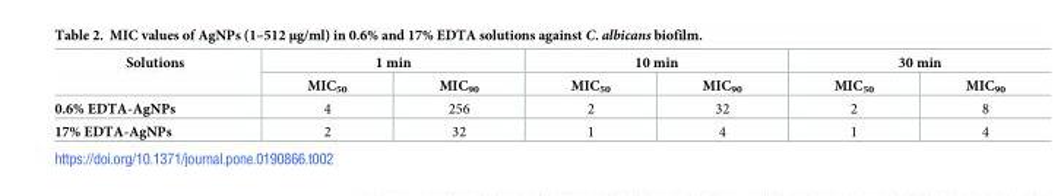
<table><thead><tr><td rowspan="2">Solutions</td><td colspan="2">1 min</td><td colspan="2">10 min</td><td colspan="2">30 min</td></tr><tr><td>MIC<sub>50</sub></td><td>MIC<sub>90</sub></td><td>MIC<sub>50</sub></td><td>MIC<sub>90</sub></td><td>MIC<sub>50</sub></td><td>MIC<sub>90</sub></td></tr></thead><tbody><tr><td>0.6% EDTA-AgNPs</td><td>4</td><td>256</td><td>2</td><td>32</td><td>2</td><td>8</td></tr><tr><td>17% EDTA-AgNPs</td><td>2</td><td>32</td><td>1</td><td>4</td><td>1</td><td>4</td></tr></tbody></table>